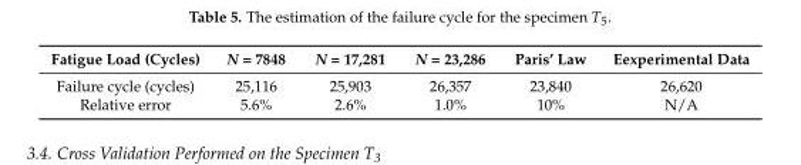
<table><thead><tr><td>Fatigue Load (Cycles)</td><td>N = 7848</td><td>N = 17,281</td><td>N = 23,286</td><td>Paris’ Law</td><td>Eexperimental Data</td></tr></thead><tbody><tr><td>Failure cycle (cycles)</td><td>25,116</td><td>25,903</td><td>26,357</td><td>23,840</td><td>26,620</td></tr><tr><td>Relative error</td><td>5.6%</td><td>2.6%</td><td>1.0%</td><td>10%</td><td>N/A</td></tr></tbody></table>